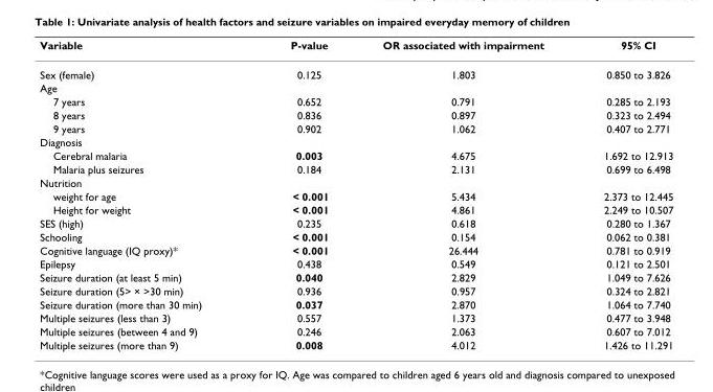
<table><thead><tr><td>Variable</td><td>P-value</td><td>OR associated with impairment</td><td>95% CI</td></tr></thead><tbody><tr><td>Sex (female)</td><td>0.125</td><td>1.803</td><td>0.850 to 3.826</td></tr><tr><td colspan="4">Age</td></tr><tr><td>7 years</td><td>0.652</td><td>0.791</td><td>0.285 to 2.193</td></tr><tr><td>8 years</td><td>0.836</td><td>0.897</td><td>0.323 to 2.494</td></tr><tr><td>9 years</td><td>0.902</td><td>1.062</td><td>0.407 to 2.771</td></tr><tr><td colspan="4">Diagnosis</td></tr><tr><td>Cerebral malaria</td><td>0.003</td><td>4.675</td><td>1.692 to 12.913</td></tr><tr><td>Malaria plus seizures</td><td>0.184</td><td>2.131</td><td>0.699 to 6.498</td></tr><tr><td colspan="4">Nutrition</td></tr><tr><td>weight for age</td><td>&lt; 0.001</td><td>5.434</td><td>2.373 to 12.445</td></tr><tr><td>Height for weight</td><td>&lt; 0.001</td><td>4.861</td><td>2.249 to 10.507</td></tr><tr><td>SES (high)</td><td>0.235</td><td>0.618</td><td>0.280 to 1.367</td></tr><tr><td>Schooling</td><td>&lt; 0.001</td><td>0.154</td><td>0.062 to 0.381</td></tr><tr><td>Cognitive language (IQ proxy)*</td><td>&lt; 0.001</td><td>26.444</td><td>0.781 to 0.919</td></tr><tr><td>Epilepsy</td><td>0.438</td><td>0.549</td><td>0.121 to 2.501</td></tr><tr><td>Seizure duration (at least 5 min)</td><td>0.040</td><td>2.829</td><td>1.049 to 7.626</td></tr><tr><td>Seizure duration (5&gt; × &gt;30 min)</td><td>0.936</td><td>0.957</td><td>0.324 to 2.821</td></tr><tr><td>Seizure duration (more than 30 min)</td><td>0.037</td><td>2.870</td><td>1.064 to 7.740</td></tr><tr><td>Multiple seizures (less than 3)</td><td>0.557</td><td>1.373</td><td>0.477 to 3.948</td></tr><tr><td>Multiple seizures (between 4 and 9)</td><td>0.246</td><td>2.063</td><td>0.607 to 7.012</td></tr><tr><td>Multiple seizures (more than 9)</td><td>0.008</td><td>4.012</td><td>1.426 to 11.291</td></tr></tbody></table>